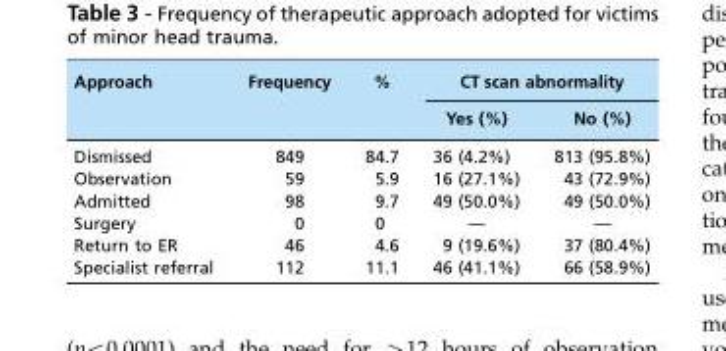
<table><thead><tr><td rowspan="2">Approach</td><td rowspan="2">Frequency</td><td rowspan="2">%</td><td colspan="2">CT scan abnormality</td></tr><tr><td>Yes (%)</td><td>No (%)</td></tr></thead><tbody><tr><td>Dismissed</td><td>849</td><td>84.7</td><td>36 (4.2%)</td><td>813 (95.8%)</td></tr><tr><td>Observation</td><td>59</td><td>5.9</td><td>16 (27.1%)</td><td>43 (72.9%)</td></tr><tr><td>Admitted</td><td>98</td><td>9.7</td><td>49 (50.0%)</td><td>49 (50.0%)</td></tr><tr><td>Surgery</td><td>0</td><td>0</td><td>—</td><td>—</td></tr><tr><td>Return to ER</td><td>46</td><td>4.6</td><td>9 (19.6%)</td><td>37 (80.4%)</td></tr><tr><td>Specialist referral</td><td>112</td><td>11.1</td><td>46 (41.1%)</td><td>66 (58.9%)</td></tr></tbody></table>